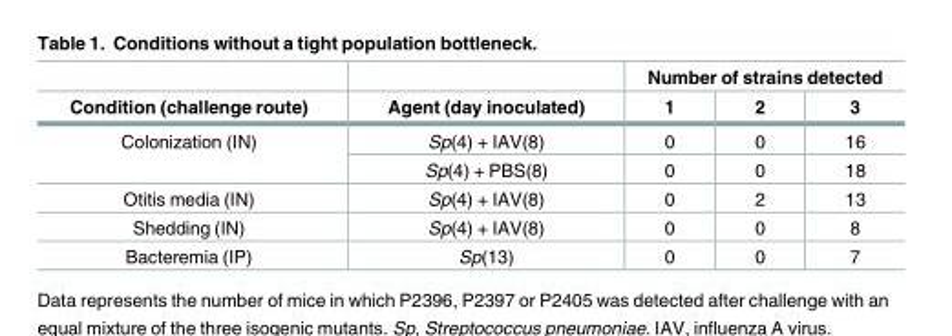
<table><thead><tr><td rowspan="2">Condition (challenge route)</td><td rowspan="2">Agent (day inoculated)</td><td colspan="3">Number of strains detected</td></tr><tr><td>1</td><td>2</td><td>3</td></tr></thead><tbody><tr><td rowspan="2">Colonization (IN)</td><td>Sp(4) + IAV(8)</td><td>0</td><td>0</td><td>16</td></tr><tr><td>Sp(4) + PBS(8)</td><td>0</td><td>0</td><td>18</td></tr><tr><td>Otitis media (IN)</td><td>Sp(4) + IAV(8)</td><td>0</td><td>2</td><td>13</td></tr><tr><td>Shedding (IN)</td><td>Sp(4) + IAV(8)</td><td>0</td><td>0</td><td>8</td></tr><tr><td>Bacteremia (IP)</td><td>Sp(13)</td><td>0</td><td>0</td><td>7</td></tr></tbody></table>